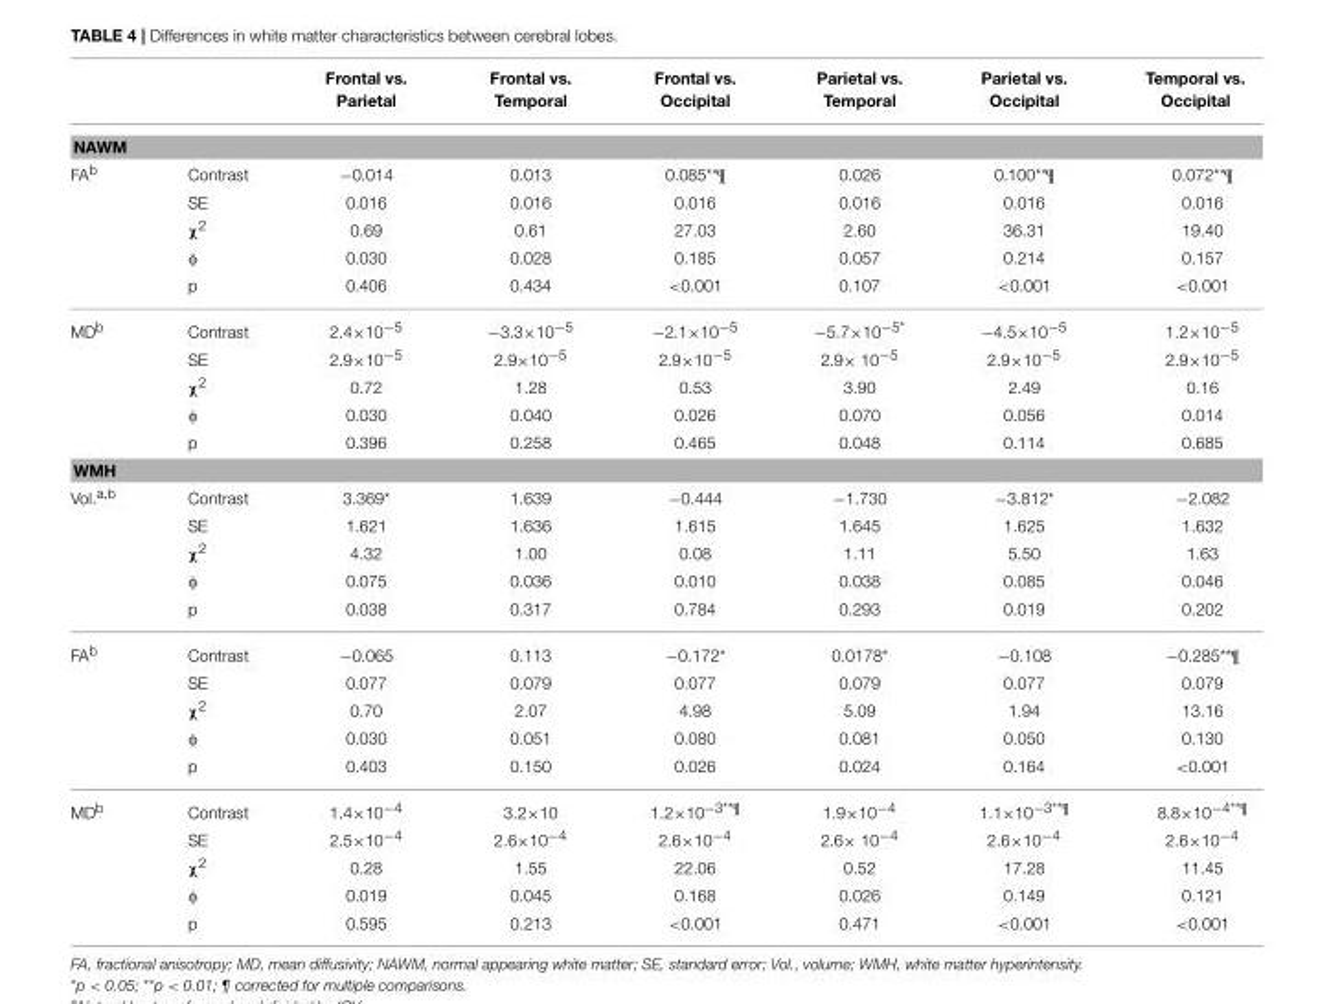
<table><thead><tr><td></td><td></td><td>Frontal vs. Parietal</td><td>Frontal vs. Temporal</td><td>Frontal vs. Occipital</td><td>Parietal vs. Temporal</td><td>Parietal vs. Occipital</td><td>Temporal vs. Occipital</td></tr></thead><tbody><tr><td colspan="8">NAWM</td></tr><tr><td rowspan="5">FA<sup>b</sup></td><td>Contrast</td><td>−0.014</td><td>0.013</td><td>0.085<sup>**¶</sup></td><td>0.026</td><td>0.100<sup>**¶</sup></td><td>0.072<sup>**¶</sup></td></tr><tr><td>SE</td><td>0.016</td><td>0.016</td><td>0.016</td><td>0.016</td><td>0.016</td><td>0.016</td></tr><tr><td>χ<sup>2</sup></td><td>0.69</td><td>0.61</td><td>27.03</td><td>2.60</td><td>36.31</td><td>19.40</td></tr><tr><td>φ</td><td>0.030</td><td>0.028</td><td>0.185</td><td>0.057</td><td>0.214</td><td>0.157</td></tr><tr><td>p</td><td>0.406</td><td>0.434</td><td>&lt;0.001</td><td>0.107</td><td>&lt;0.001</td><td>&lt;0.001</td></tr><tr><td rowspan="5">MD<sup>b</sup></td><td>Contrast</td><td>2.4×10<sup>−5</sup></td><td>−3.3×10<sup>−5</sup></td><td>−2.1×10<sup>−5</sup></td><td>−5.7×10<sup>−5*</sup></td><td>−4.5×10<sup>−5</sup></td><td>1.2×10<sup>−5</sup></td></tr><tr><td>SE</td><td>2.9×10<sup>−5</sup></td><td>2.9×10<sup>−5</sup></td><td>2.9×10<sup>−5</sup></td><td>2.9× 10<sup>−5</sup></td><td>2.9×10<sup>−5</sup></td><td>2.9×10<sup>−5</sup></td></tr><tr><td>χ<sup>2</sup></td><td>0.72</td><td>1.28</td><td>0.53</td><td>3.90</td><td>2.49</td><td>0.16</td></tr><tr><td>φ</td><td>0.030</td><td>0.040</td><td>0.026</td><td>0.070</td><td>0.056</td><td>0.014</td></tr><tr><td>p</td><td>0.396</td><td>0.258</td><td>0.465</td><td>0.048</td><td>0.114</td><td>0.685</td></tr><tr><td colspan="8">WMH</td></tr><tr><td rowspan="5">Vol.<sup>a,b</sup></td><td>Contrast</td><td>3.369*</td><td>1.639</td><td>−0.444</td><td>−1.730</td><td>−3.812*</td><td>−2.082</td></tr><tr><td>SE</td><td>1.621</td><td>1.636</td><td>1.615</td><td>1.645</td><td>1.625</td><td>1.632</td></tr><tr><td>χ<sup>2</sup></td><td>4.32</td><td>1.00</td><td>0.08</td><td>1.11</td><td>5.50</td><td>1.63</td></tr><tr><td>φ</td><td>0.075</td><td>0.036</td><td>0.010</td><td>0.038</td><td>0.085</td><td>0.046</td></tr><tr><td>p</td><td>0.038</td><td>0.317</td><td>0.784</td><td>0.293</td><td>0.019</td><td>0.202</td></tr><tr><td rowspan="5">FA<sup>b</sup></td><td>Contrast</td><td>−0.065</td><td>0.113</td><td>−0.172*</td><td>0.0178*</td><td>−0.108</td><td>−0.285<sup>**¶</sup></td></tr><tr><td>SE</td><td>0.077</td><td>0.079</td><td>0.077</td><td>0.079</td><td>0.077</td><td>0.079</td></tr><tr><td>χ<sup>2</sup></td><td>0.70</td><td>2.07</td><td>4.98</td><td>5.09</td><td>1.94</td><td>13.16</td></tr><tr><td>φ</td><td>0.030</td><td>0.051</td><td>0.080</td><td>0.081</td><td>0.050</td><td>0.130</td></tr><tr><td>p</td><td>0.403</td><td>0.150</td><td>0.026</td><td>0.024</td><td>0.164</td><td>&lt;0.001</td></tr><tr><td rowspan="5">MD<sup>b</sup></td><td>Contrast</td><td>1.4×10<sup>−4</sup></td><td>3.2×10</td><td>1.2×10<sup>−3**¶</sup></td><td>1.9×10<sup>−4</sup></td><td>1.1×10<sup>−3**¶</sup></td><td>8.8×10<sup>−4**¶</sup></td></tr><tr><td>SE</td><td>2.5×10<sup>−4</sup></td><td>2.6×10<sup>−4</sup></td><td>2.6×10<sup>−4</sup></td><td>2.6× 10<sup>−4</sup></td><td>2.6×10<sup>−4</sup></td><td>2.6×10<sup>−4</sup></td></tr><tr><td>χ<sup>2</sup></td><td>0.28</td><td>1.55</td><td>22.06</td><td>0.52</td><td>17.28</td><td>11.45</td></tr><tr><td>φ</td><td>0.019</td><td>0.045</td><td>0.168</td><td>0.026</td><td>0.149</td><td>0.121</td></tr><tr><td>p</td><td>0.595</td><td>0.213</td><td>&lt;0.001</td><td>0.471</td><td>&lt;0.001</td><td>&lt;0.001</td></tr></tbody></table>